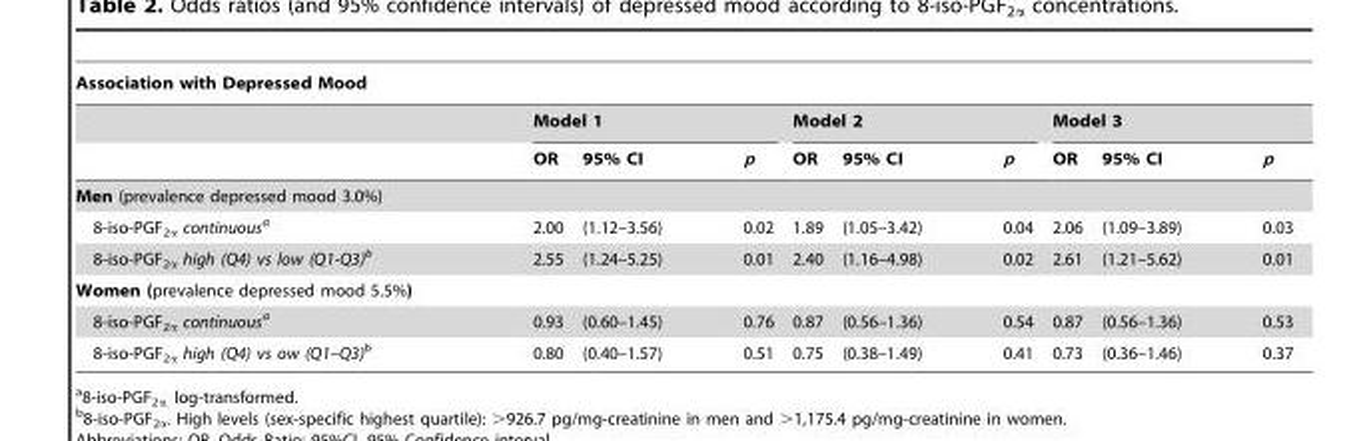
<table><thead><tr><td colspan="10">Association with Depressed Mood</td></tr><tr><td rowspan="2"></td><td colspan="3">Model 1</td><td colspan="3">Model 2</td><td colspan="3">Model 3</td></tr><tr><td>OR</td><td>95% CI</td><td>p</td><td>OR</td><td>95% CI</td><td>p</td><td>OR</td><td>95% CI</td><td>p</td></tr></thead><tbody><tr><td colspan="10">Men (prevalence depressed mood 3.0%)</td></tr><tr><td>8-iso-PGF<sub>2α</sub> continuousa</td><td>2.00</td><td>(1.12–3.56)</td><td>0.02</td><td>1.89</td><td>(1.05–3.42)</td><td>0.04</td><td>2.06</td><td>(1.09–3.89)</td><td>0.03</td></tr><tr><td>8-iso-PGF<sub>2α</sub> high (Q4) vs low (Q1-Q3)b</td><td>2.55</td><td>(1.24–5.25)</td><td>0.01</td><td>2.40</td><td>(1.16–4.98)</td><td>0.02</td><td>2.61</td><td>(1.21–5.62)</td><td>0.01</td></tr><tr><td colspan="10">Women (prevalence depressed mood 5.5%)</td></tr><tr><td>8-iso-PGF<sub>2α</sub> continuousa</td><td>0.93</td><td>(0.60–1.45)</td><td>0.76</td><td>0.87</td><td>(0.56–1.36)</td><td>0.54</td><td>0.87</td><td>(0.56–1.36)</td><td>0.53</td></tr><tr><td>8-iso-PGF<sub>2α</sub> high (Q4) vs ow (Q1–Q3)b</td><td>0.80</td><td>(0.40–1.57)</td><td>0.51</td><td>0.75</td><td>(0.38–1.49)</td><td>0.41</td><td>0.73</td><td>(0.36–1.46)</td><td>0.37</td></tr></tbody></table>